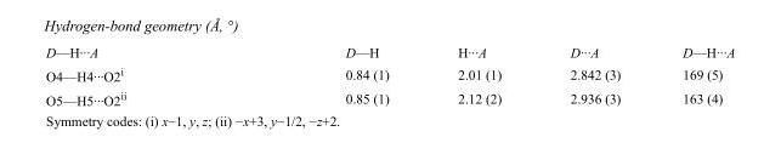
<table><tbody><tr><td>D—H···A</td><td>D—H</td><td>H···A</td><td>D···A</td><td>D—H···A</td></tr><tr><td>O4—H4···O2<sup>i</sup></td><td>0.84 (1)</td><td>2.01 (1)</td><td>2.842 (3)</td><td>169 (5)</td></tr><tr><td>O5—H5···O2<sup>ii</sup></td><td>0.85 (1)</td><td>2.12 (2)</td><td>2.936 (3)</td><td>163 (4)</td></tr></tbody></table>